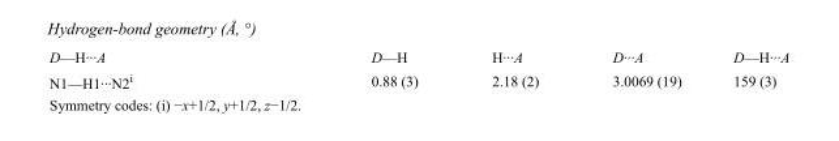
<table><tbody><tr><td>D—H···A</td><td>D—H</td><td>H···A</td><td>D···A</td><td>D—H···A</td></tr><tr><td>N1—H1···N2<sup>i</sup></td><td>0.88 (3)</td><td>2.18 (2)</td><td>3.0069 (19)</td><td>159 (3)</td></tr></tbody></table>